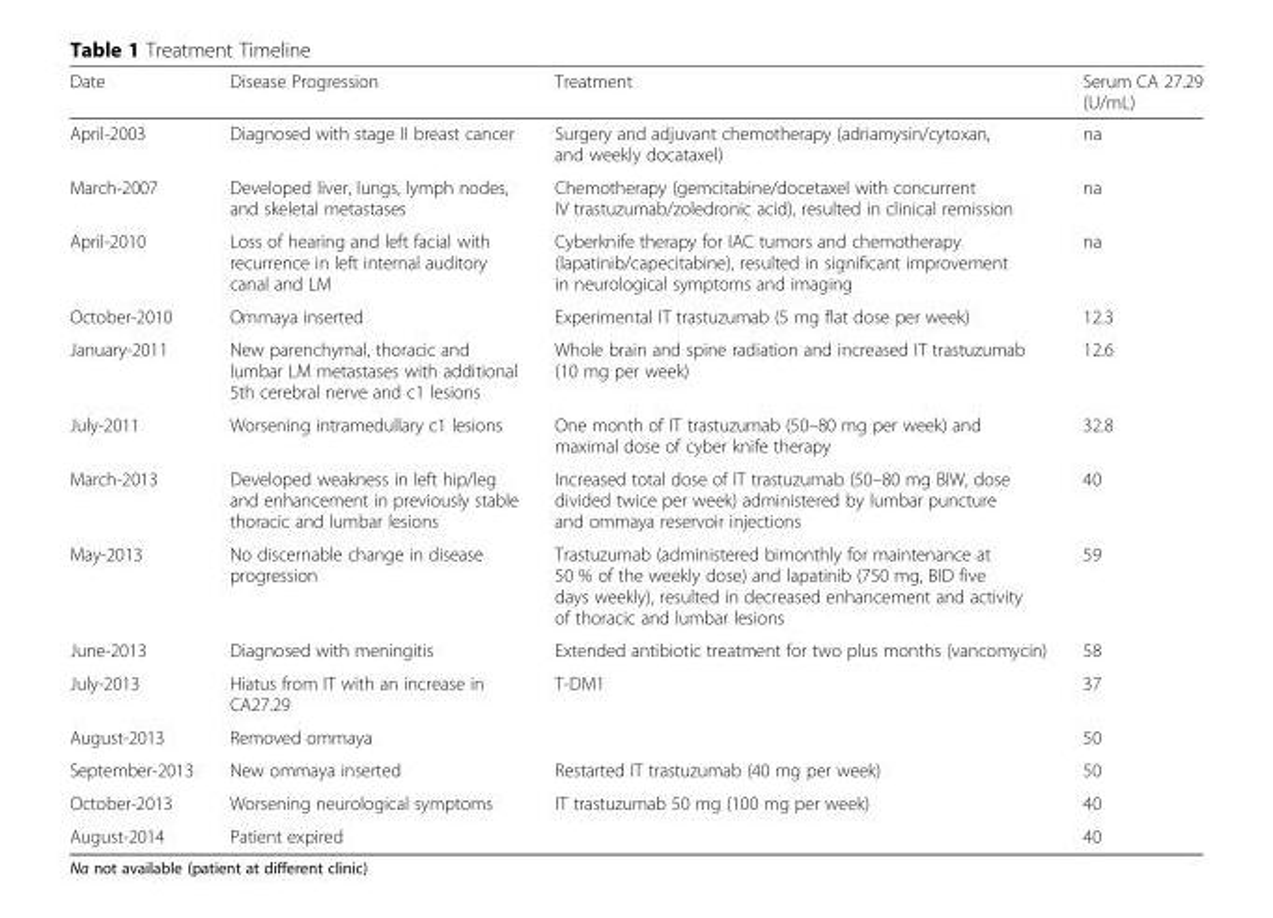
<table><thead><tr><td>Date</td><td>Disease Progression</td><td>Treatment</td><td>Serum CA 27.29 (U/mL)</td></tr></thead><tbody><tr><td>April-2003</td><td>Diagnosed with stage II breast cancer</td><td>Surgery and adjuvant chemotherapy (adriamysin/cytoxan, and weekly docataxel)</td><td>na</td></tr><tr><td>March-2007</td><td>Developed liver, lungs, lymph nodes, and skeletal metastases</td><td>Chemotherapy (gemcitabine/docetaxel with concurrent IV trastuzumab/zoledronic acid), resulted in clinical remission</td><td>na</td></tr><tr><td>April-2010</td><td>Loss of hearing and left facial with recurrence in left internal auditory canal and LM</td><td>Cyberknife therapy for IAC tumors and chemotherapy (lapatinib/capecitabine), resulted in significant improvement in neurological symptoms and imaging</td><td>na</td></tr><tr><td>October-2010</td><td>Ommaya inserted</td><td>Experimental IT trastuzumab (5 mg flat dose per week)</td><td>12.3</td></tr><tr><td>January-2011</td><td>New parenchymal, thoracic and lumbar LM metastases with additional 5th cerebral nerve and c1 lesions</td><td>Whole brain and spine radiation and increased IT trastuzumab (10 mg per week)</td><td>12.6</td></tr><tr><td>July-2011</td><td>Worsening intramedullary c1 lesions</td><td>One month of IT trastuzumab (50–80 mg per week) and maximal dose of cyber knife therapy</td><td>32.8</td></tr><tr><td>March-2013</td><td>Developed weakness in left hip/leg and enhancement in previously stable thoracic and lumbar lesions</td><td>Increased total dose of IT trastuzumab (50–80 mg BIW, dose divided twice per week) administered by lumbar puncture and ommaya reservoir injections</td><td>40</td></tr><tr><td>May-2013</td><td>No discernable change in disease progression</td><td>Trastuzumab (administered bimonthly for maintenance at 50 % of the weekly dose) and lapatinib (750 mg, BID five days weekly), resulted in decreased enhancement and activity of thoracic and lumbar lesions</td><td>59</td></tr><tr><td>June-2013</td><td>Diagnosed with meningitis</td><td>Extended antibiotic treatment for two plus months (vancomycin)</td><td>58</td></tr><tr><td>July-2013</td><td>Hiatus from IT with an increase in CA27.29</td><td>T-DM1</td><td>37</td></tr><tr><td>August-2013</td><td>Removed ommaya</td><td></td><td>50</td></tr><tr><td>September-2013</td><td>New ommaya inserted</td><td>Restarted IT trastuzumab (40 mg per week)</td><td>50</td></tr><tr><td>October-2013</td><td>Worsening neurological symptoms</td><td>IT trastuzumab 50 mg (100 mg per week)</td><td>40</td></tr><tr><td>August-2014</td><td>Patient expired</td><td></td><td>40</td></tr></tbody></table>